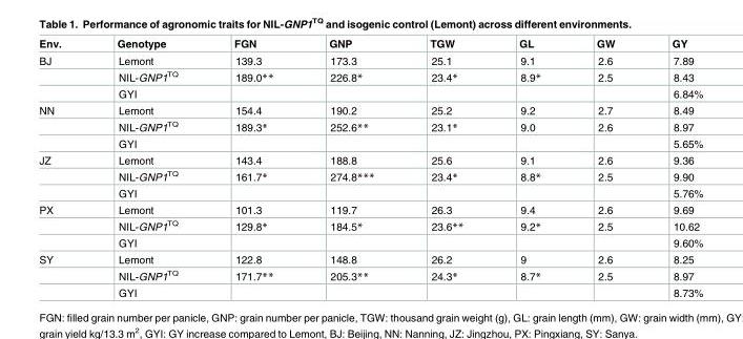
<table><thead><tr><td>Env.</td><td>Genotype</td><td>FGN</td><td>GNP</td><td>TGW</td><td>GL</td><td>GW</td><td>GY</td></tr></thead><tbody><tr><td rowspan="3">BJ</td><td>Lemont</td><td>139.3</td><td>173.3</td><td>25.1</td><td>9.1</td><td>2.6</td><td>7.89</td></tr><tr><td>NIL-GNP1<sup>TQ</sup></td><td>189.0**</td><td>226.8*</td><td>23.4*</td><td>8.9*</td><td>2.5</td><td>8.43</td></tr><tr><td>GYI</td><td></td><td></td><td></td><td></td><td></td><td>6.84%</td></tr><tr><td rowspan="3">NN</td><td>Lemont</td><td>154.4</td><td>190.2</td><td>25.2</td><td>9.2</td><td>2.7</td><td>8.49</td></tr><tr><td>NIL-GNP1<sup>TQ</sup></td><td>189.3*</td><td>252.6**</td><td>23.1*</td><td>9.0</td><td>2.6</td><td>8.97</td></tr><tr><td>GYI</td><td></td><td></td><td></td><td></td><td></td><td>5.65%</td></tr><tr><td rowspan="3">JZ</td><td>Lemont</td><td>143.4</td><td>188.8</td><td>25.6</td><td>9.1</td><td>2.6</td><td>9.36</td></tr><tr><td>NIL-GNP1<sup>TQ</sup></td><td>161.7*</td><td>274.8***</td><td>23.4*</td><td>8.8*</td><td>2.5</td><td>9.90</td></tr><tr><td>GYI</td><td></td><td></td><td></td><td></td><td></td><td>5.76%</td></tr><tr><td rowspan="3">PX</td><td>Lemont</td><td>101.3</td><td>119.7</td><td>26.3</td><td>9.4</td><td>2.6</td><td>9.69</td></tr><tr><td>NIL-GNP1<sup>TQ</sup></td><td>129.8*</td><td>184.5*</td><td>23.6**</td><td>9.2*</td><td>2.5</td><td>10.62</td></tr><tr><td>GYI</td><td></td><td></td><td></td><td></td><td></td><td>9.60%</td></tr><tr><td rowspan="3">SY</td><td>Lemont</td><td>122.8</td><td>148.8</td><td>26.2</td><td>9</td><td>2.6</td><td>8.25</td></tr><tr><td>NIL-GNP1<sup>TQ</sup></td><td>171.7**</td><td>205.3**</td><td>24.3*</td><td>8.7*</td><td>2.5</td><td>8.97</td></tr><tr><td>GYI</td><td></td><td></td><td></td><td></td><td></td><td>8.73%</td></tr></tbody></table>